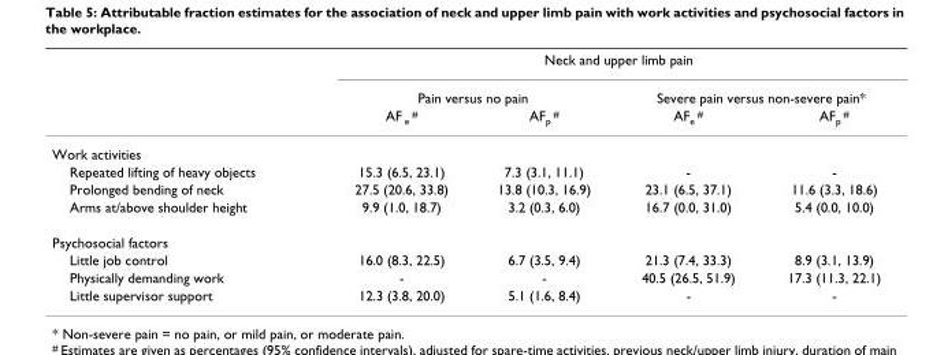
<table><thead><tr><td rowspan="3"></td><td colspan="4">Neck and upper limb pain</td></tr><tr><td colspan="2">Pain versus no pain</td><td colspan="2">Severe pain versus non-severe pain*</td></tr><tr><td>AF e #</td><td>AFp #</td><td>AFe #</td><td>AFp #</td></tr></thead><tbody><tr><td colspan="5">Work activities</td></tr><tr><td>Repeated lifting of heavy objects</td><td>15.3 (6.5, 23.1)</td><td>7.3 (3.1, 11.1)</td><td>-</td><td>-</td></tr><tr><td>Prolonged bending of neck</td><td>27.5 (20.6, 33.8)</td><td>13.8 (10.3, 16.9)</td><td>23.1 (6.5, 37.1)</td><td>11.6 (3.3, 18.6)</td></tr><tr><td>Arms at/above shoulder height</td><td>9.9 (1.0, 18.7)</td><td>3.2 (0.3, 6.0)</td><td>16.7 (0.0, 31.0)</td><td>5.4 (0.0, 10.0)</td></tr><tr><td colspan="5">Psychosocial factors</td></tr><tr><td>Little job control</td><td>16.0 (8.3, 22.5)</td><td>6.7 (3.5, 9.4)</td><td>21.3 (7.4, 33.3)</td><td>8.9 (3.1, 13.9)</td></tr><tr><td>Physically demanding work</td><td>-</td><td>-</td><td>40.5 (26.5, 51.9)</td><td>17.3 (11.3, 22.1)</td></tr><tr><td>Little supervisor support</td><td>12.3 (3.8, 20.0)</td><td>5.1 (1.6, 8.4)</td><td>-</td><td>-</td></tr></tbody></table>